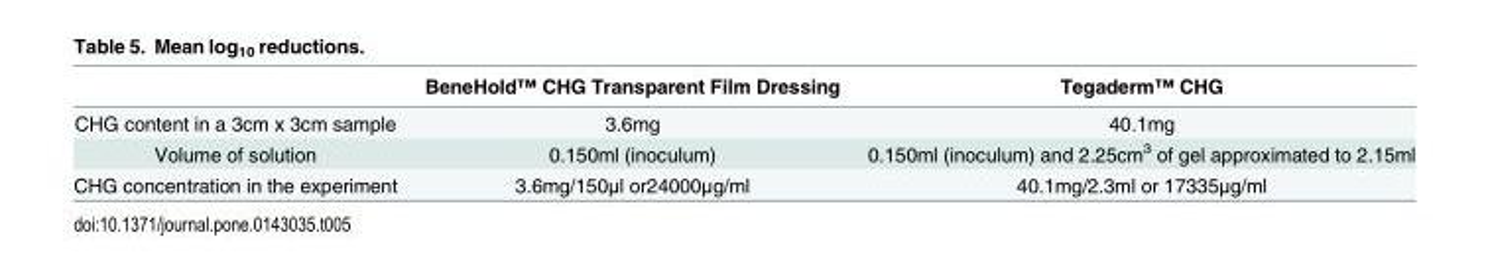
<table><thead><tr><td></td><td>BeneHold™ CHG Transparent Film Dressing</td><td>Tegaderm™ CHG</td></tr></thead><tbody><tr><td>CHG content in a 3cm x 3cm sample</td><td>3.6mg</td><td>40.1mg</td></tr><tr><td>Volume of solution</td><td>0.150ml (inoculum)</td><td>0.150ml (inoculum) and 2.25cm<sup>3</sup> of gel approximated to 2.15ml</td></tr><tr><td>CHG concentration in the experiment</td><td>3.6mg/150μl or24000μg/ml</td><td>40.1mg/2.3ml or 17335μg/ml</td></tr></tbody></table>